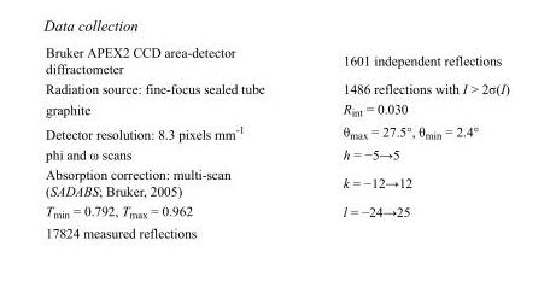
<table><tbody><tr><td>Bruker APEX2 CCD area-detector diffractometer</td><td>1601 independent reflections</td></tr><tr><td>Radiation source: fine-focus sealed tube</td><td>1486 reflections with I &gt; 2σ(I)</td></tr><tr><td>graphite</td><td>R<sub>int</sub> = 0.030</td></tr><tr><td>Detector resolution: 8.3 pixels mm<sup>-1</sup></td><td>θ<sub>max</sub> = 27.5°, θ<sub>min</sub> = 2.4°</td></tr><tr><td>phi and ω scans</td><td>h = −5→5</td></tr><tr><td>Absorption correction: multi-scan (SADABS; Bruker, 2005)</td><td>k = −12→12</td></tr><tr><td>T<sub>min</sub> = 0.792, T<sub>max</sub> = 0.962</td><td>l = −24→25</td></tr><tr><td>17824 measured reflections</td><td></td></tr></tbody></table>